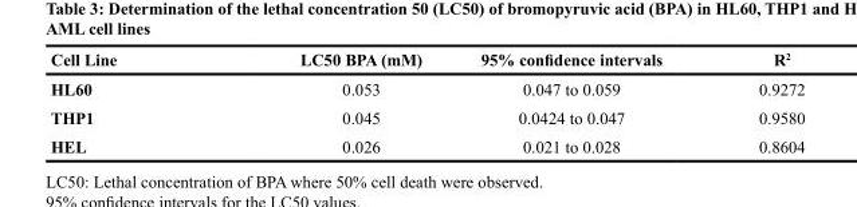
<table><thead><tr><td>Cell Line</td><td>LC50 BPA (mM)</td><td>95% confidence intervals</td><td>R<sup>2</sup></td></tr></thead><tbody><tr><td>HL60</td><td>0.053</td><td>0.047 to 0.059</td><td>0.9272</td></tr><tr><td>THP1</td><td>0.045</td><td>0.0424 to 0.047</td><td>0.9580</td></tr><tr><td>HEL</td><td>0.026</td><td>0.021 to 0.028</td><td>0.8604</td></tr></tbody></table>